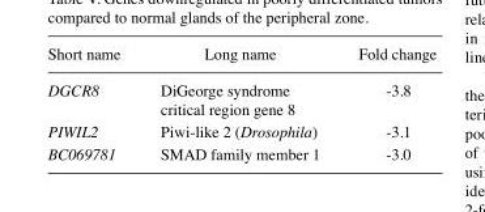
<table><thead><tr><td>Short name</td><td>Long name</td><td>Fold change</td></tr></thead><tbody><tr><td>DGCR8</td><td>DiGeorge syndrome critical region gene 8</td><td>-3.8</td></tr><tr><td>PIWIL2</td><td>Piwi-like 2 (Drosophila)</td><td>-3.1</td></tr><tr><td>BC069781</td><td>SMAD family member 1</td><td>-3.0</td></tr></tbody></table>